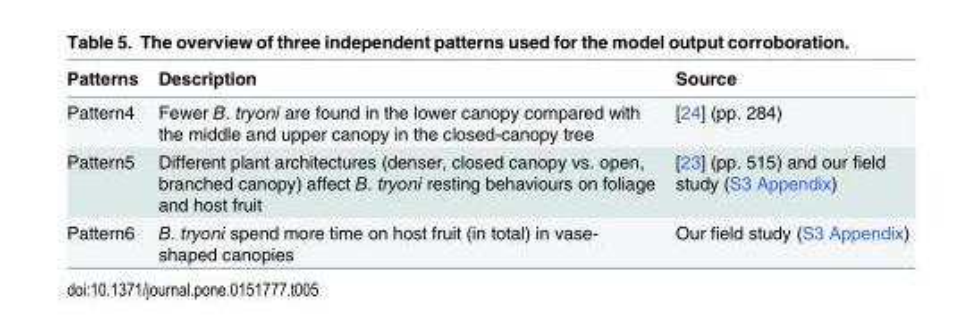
<table><thead><tr><td>Patterns</td><td>Description</td><td>Source</td></tr></thead><tbody><tr><td>Pattern4</td><td>Fewer B. tryoni are found in the lower canopy compared with the middle and upper canopy in the closed-canopy tree</td><td>[24] (pp. 284)</td></tr><tr><td>Pattern5</td><td>Different plant architectures (denser, closed canopy vs. open, branched canopy) affect B. tryoni resting behaviours on foliage and host fruit</td><td>[23] (pp. 515) and our field study (S3 Appendix)</td></tr><tr><td>Pattern6</td><td>B. tryoni spend more time on host fruit (in total) in vase- shaped canopies</td><td>Our field study (S3 Appendix)</td></tr></tbody></table>